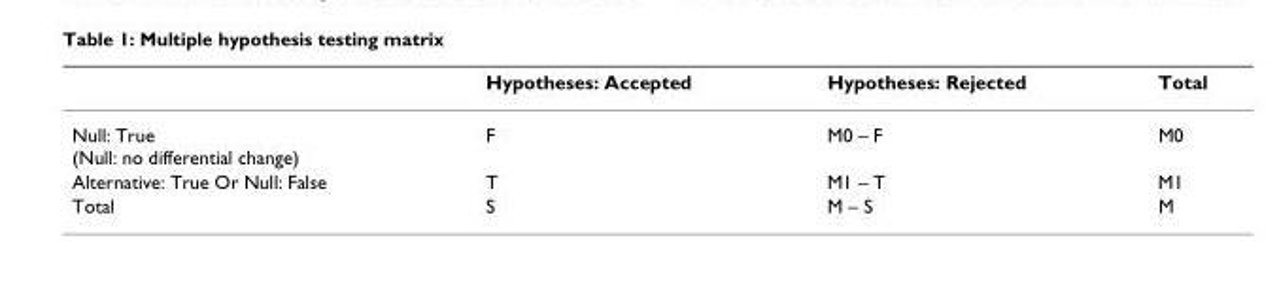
<table><thead><tr><td></td><td>Hypotheses: Accepted</td><td>Hypotheses: Rejected</td><td>Total</td></tr></thead><tbody><tr><td>Null: True (Null: no differential change)</td><td>F</td><td>M0 – F</td><td>M0</td></tr><tr><td>Alternative: True Or Null: False</td><td>T</td><td>M1 – T</td><td>M1</td></tr><tr><td>Total</td><td>S</td><td>M – S</td><td>M</td></tr></tbody></table>